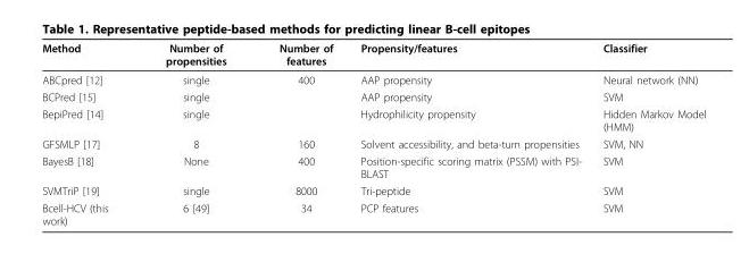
<table><thead><tr><td>Method</td><td>Number of propensities</td><td>Number of features</td><td>Propensity/features</td><td>Classifier</td></tr></thead><tbody><tr><td>ABCpred [12]</td><td>single</td><td>400</td><td>AAP propensity</td><td>Neural network (NN)</td></tr><tr><td>BCPred [15]</td><td>single</td><td></td><td>AAP propensity</td><td>SVM</td></tr><tr><td>BepiPred [14]</td><td>single</td><td></td><td>Hydrophilicity propensity</td><td>Hidden Markov Model (HMM)</td></tr><tr><td>GFSMLP [17]</td><td>8</td><td>160</td><td>Solvent accessibility, and beta-turn propensities</td><td>SVM, NN</td></tr><tr><td>BayesB [18]</td><td>None</td><td>400</td><td>Position-specific scoring matrix (PSSM) with PSI- BLAST</td><td>SVM</td></tr><tr><td>SVMTriP [19]</td><td>single</td><td>8000</td><td>Tri-peptide</td><td>SVM</td></tr><tr><td>Bcell-HCV (this work)</td><td>6 [49]</td><td>34</td><td>PCP features</td><td>SVM</td></tr></tbody></table>